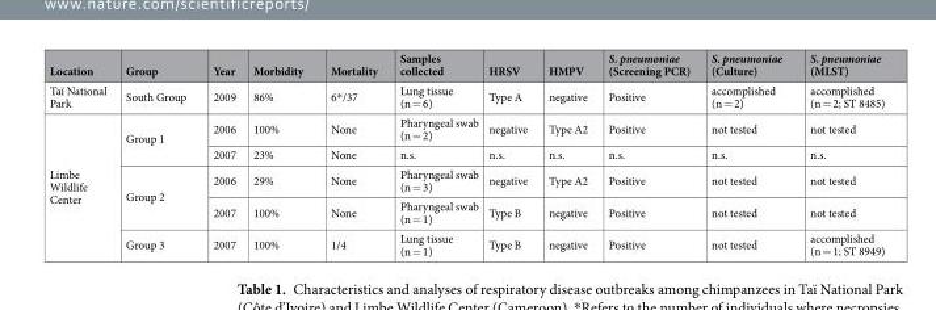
<table><thead><tr><td>Location</td><td>Group</td><td>Year</td><td>Morbidity</td><td>Mortality</td><td>Samples collected</td><td>HRSV</td><td>HMPV</td><td>S. pneumoniae (Screening PCR)</td><td>S. pneumoniae (Culture)</td><td>S. pneumoniae (MLST)</td></tr></thead><tbody><tr><td>Taï National Park</td><td>South Group</td><td>2009</td><td>86%</td><td>6*/37</td><td>Lung tissue (n = 6)</td><td>Type A</td><td>negative</td><td>Positive</td><td>accomplished (n = 2)</td><td>accomplished (n = 2; ST 8485)</td></tr><tr><td rowspan="5">Limbe Wildlife Center</td><td rowspan="2">Group 1</td><td>2006</td><td>100%</td><td>None</td><td>Pharyngeal swab (n = 2)</td><td>negative</td><td>Type A2</td><td>Positive</td><td>not tested</td><td>not tested</td></tr><tr><td>2007</td><td>23%</td><td>None</td><td>n.s.</td><td>n.s.</td><td>n.s.</td><td>n.s.</td><td>n.s.</td><td>n.s.</td></tr><tr><td rowspan="2">Group 2</td><td>2006</td><td>29%</td><td>None</td><td>Pharyngeal swab (n = 3)</td><td>negative</td><td>Type A2</td><td>Positive</td><td>not tested</td><td>not tested</td></tr><tr><td>2007</td><td>100%</td><td>None</td><td>Pharyngeal swab (n = 1)</td><td>Type B</td><td>negative</td><td>Positive</td><td>not tested</td><td>not tested</td></tr><tr><td>Group 3</td><td>2007</td><td>100%</td><td>1/4</td><td>Lung tissue (n = 1)</td><td>Type B</td><td>negative</td><td>Positive</td><td>not tested</td><td>accomplished (n = 1; ST 8949)</td></tr></tbody></table>